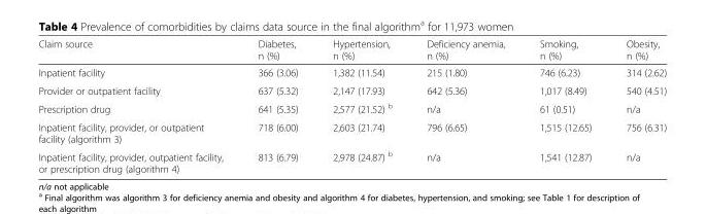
<table><thead><tr><td>Claim source</td><td>Diabetes, n (%)</td><td>Hypertension, n (%)</td><td>Deficiency anemia, n (%)</td><td>Smoking, n (%)</td><td>Obesity, n (%)</td></tr></thead><tbody><tr><td>Inpatient facility</td><td>366 (3.06)</td><td>1,382 (11.54)</td><td>215 (1.80)</td><td>746 (6.23)</td><td>314 (2.62)</td></tr><tr><td>Provider or outpatient facility</td><td>637 (5.32)</td><td>2,147 (17.93)</td><td>642 (5.36)</td><td>1,017 (8.49)</td><td>540 (4.51)</td></tr><tr><td>Prescription drug</td><td>641 (5.35)</td><td>2,577 (21.52) <sup>b</sup></td><td>n/a</td><td>61 (0.51)</td><td>n/a</td></tr><tr><td>Inpatient facility, provider, or outpatient facility (algorithm 3)</td><td>718 (6.00)</td><td>2,603 (21.74)</td><td>796 (6.65)</td><td>1,515 (12.65)</td><td>756 (6.31)</td></tr><tr><td>Inpatient facility, provider, outpatient facility, or prescription drug (algorithm 4)</td><td>813 (6.79)</td><td>2,978 (24.87) <sup>b</sup></td><td>n/a</td><td>1,541 (12.87)</td><td>n/a</td></tr></tbody></table>